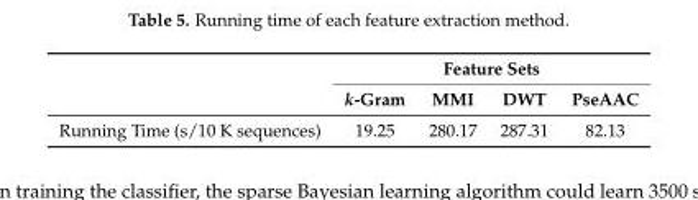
<table><thead><tr><td rowspan="2"></td><td colspan="4">Feature Sets</td></tr><tr><td>k-Gram</td><td>MMI</td><td>DWT</td><td>PseAAC</td></tr></thead><tbody><tr><td>Running Time (s/10 K sequences)</td><td>19.25</td><td>280.17</td><td>287.31</td><td>82.13</td></tr></tbody></table>